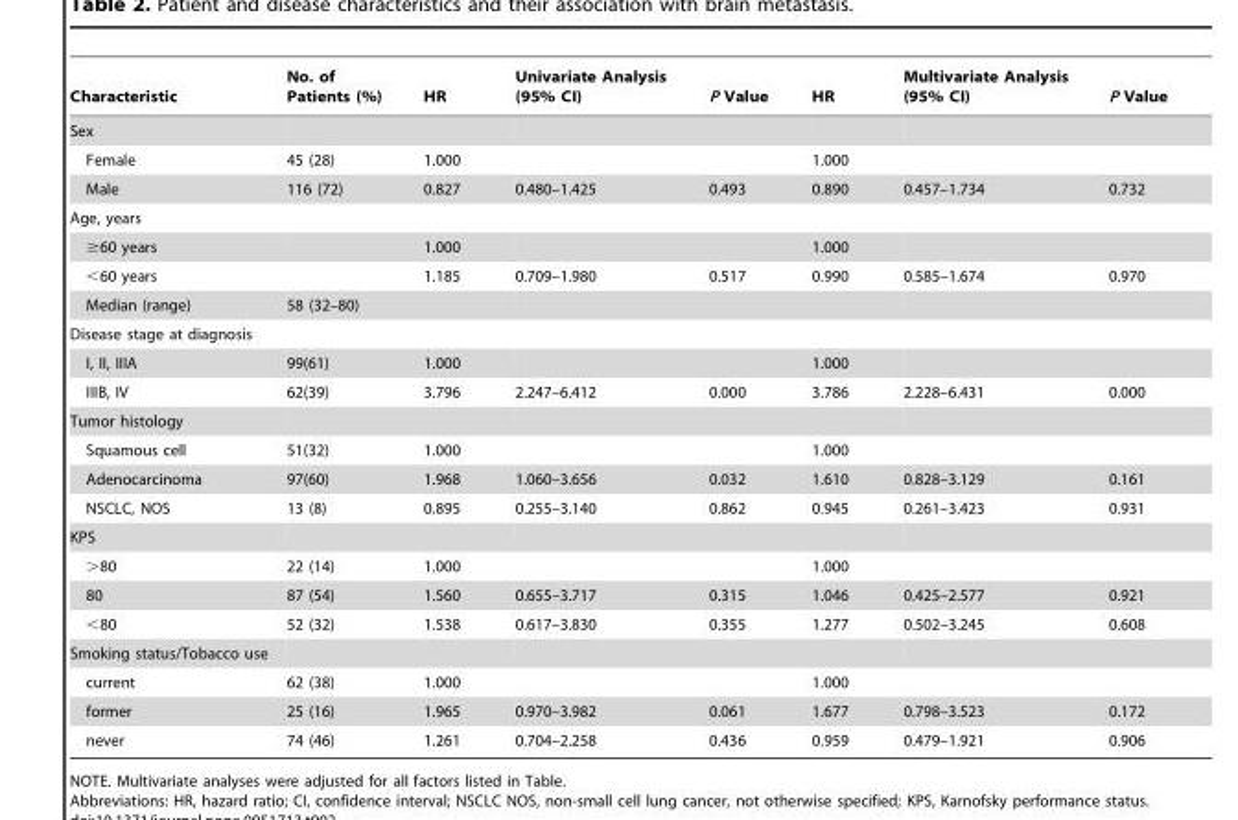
<table><thead><tr><td>Characteristic</td><td>No. of Patients (%)</td><td>HR</td><td>Univariate Analysis (95% CI)</td><td>P Value</td><td>HR</td><td>Multivariate Analysis (95% CI)</td><td>P Value</td></tr></thead><tbody><tr><td colspan="8">Sex</td></tr><tr><td>Female</td><td>45 (28)</td><td>1.000</td><td></td><td></td><td>1.000</td><td></td><td></td></tr><tr><td>Male</td><td>116 (72)</td><td>0.827</td><td>0.480–1.425</td><td>0.493</td><td>0.890</td><td>0.457–1.734</td><td>0.732</td></tr><tr><td colspan="8">Age, years</td></tr><tr><td>≥60 years</td><td></td><td>1.000</td><td></td><td></td><td>1.000</td><td></td><td></td></tr><tr><td>&lt;60 years</td><td></td><td>1.185</td><td>0.709–1.980</td><td>0.517</td><td>0.990</td><td>0.585–1.674</td><td>0.970</td></tr><tr><td>Median (range)</td><td>58 (32–80)</td><td></td><td></td><td></td><td></td><td></td><td></td></tr><tr><td colspan="8">Disease stage at diagnosis</td></tr><tr><td>I, II, IIIA</td><td>99(61)</td><td>1.000</td><td></td><td></td><td>1.000</td><td></td><td></td></tr><tr><td>IIIB, IV</td><td>62(39)</td><td>3.796</td><td>2.247–6.412</td><td>0.000</td><td>3.786</td><td>2.228–6.431</td><td>0.000</td></tr><tr><td colspan="8">Tumor histology</td></tr><tr><td>Squamous cell</td><td>51(32)</td><td>1.000</td><td></td><td></td><td>1.000</td><td></td><td></td></tr><tr><td>Adenocarcinoma</td><td>97(60)</td><td>1.968</td><td>1.060–3.656</td><td>0.032</td><td>1.610</td><td>0.828–3.129</td><td>0.161</td></tr><tr><td>NSCLC, NOS</td><td>13 (8)</td><td>0.895</td><td>0.255–3.140</td><td>0.862</td><td>0.945</td><td>0.261–3.423</td><td>0.931</td></tr><tr><td colspan="8">KPS</td></tr><tr><td>&gt;80</td><td>22 (14)</td><td>1.000</td><td></td><td></td><td>1.000</td><td></td><td></td></tr><tr><td>80</td><td>87 (54)</td><td>1.560</td><td>0.655–3.717</td><td>0.315</td><td>1.046</td><td>0.425–2.577</td><td>0.921</td></tr><tr><td>&lt;80</td><td>52 (32)</td><td>1.538</td><td>0.617–3.830</td><td>0.355</td><td>1.277</td><td>0.502–3.245</td><td>0.608</td></tr><tr><td colspan="8">Smoking status/Tobacco use</td></tr><tr><td>current</td><td>62 (38)</td><td>1.000</td><td></td><td></td><td>1.000</td><td></td><td></td></tr><tr><td>former</td><td>25 (16)</td><td>1.965</td><td>0.970–3.982</td><td>0.061</td><td>1.677</td><td>0.798–3.523</td><td>0.172</td></tr><tr><td>never</td><td>74 (46)</td><td>1.261</td><td>0.704–2.258</td><td>0.436</td><td>0.959</td><td>0.479–1.921</td><td>0.906</td></tr></tbody></table>